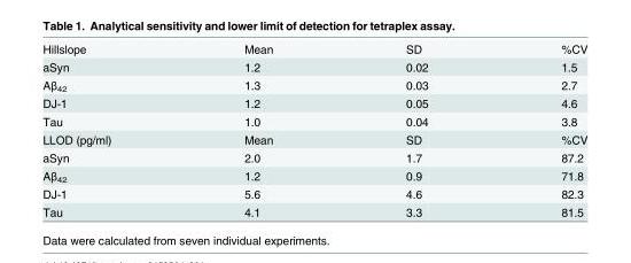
<table><tbody><tr><td>Hillslope</td><td>Mean</td><td>SD</td><td>%CV</td></tr><tr><td>aSyn</td><td>1.2</td><td>0.02</td><td>1.5</td></tr><tr><td>Aβ<sub>42</sub></td><td>1.3</td><td>0.03</td><td>2.7</td></tr><tr><td>DJ-1</td><td>1.2</td><td>0.05</td><td>4.6</td></tr><tr><td>Tau</td><td>1.0</td><td>0.04</td><td>3.8</td></tr><tr><td>LLOD (pg/ml)</td><td>Mean</td><td>SD</td><td>%CV</td></tr><tr><td>aSyn</td><td>2.0</td><td>1.7</td><td>87.2</td></tr><tr><td>Aβ<sub>42</sub></td><td>1.2</td><td>0.9</td><td>71.8</td></tr><tr><td>DJ-1</td><td>5.6</td><td>4.6</td><td>82.3</td></tr><tr><td>Tau</td><td>4.1</td><td>3.3</td><td>81.5</td></tr></tbody></table>